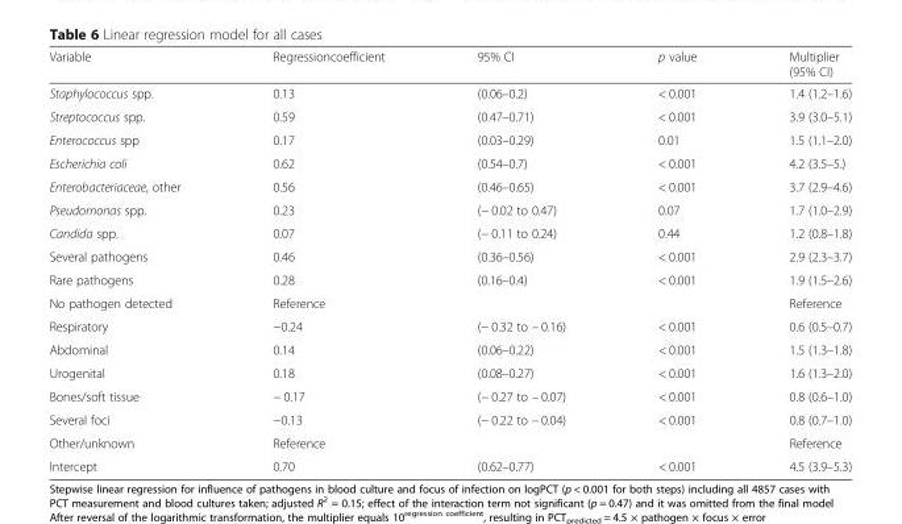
<table><thead><tr><td>Variable</td><td>Regressioncoefficient</td><td>95% CI</td><td>p value</td><td>Multiplier (95% CI)</td></tr></thead><tbody><tr><td>Staphylococcus spp.</td><td>0.13</td><td>(0.06–0.2)</td><td>&lt; 0.001</td><td>1.4 (1.2–1.6)</td></tr><tr><td>Streptococcus spp.</td><td>0.59</td><td>(0.47–0.71)</td><td>&lt; 0.001</td><td>3.9 (3.0–5.1)</td></tr><tr><td>Enterococcus spp</td><td>0.17</td><td>(0.03–0.29)</td><td>0.01</td><td>1.5 (1.1–2.0)</td></tr><tr><td>Escherichia coli</td><td>0.62</td><td>(0.54–0.7)</td><td>&lt; 0.001</td><td>4.2 (3.5–5.)</td></tr><tr><td>Enterobacteriaceae, other</td><td>0.56</td><td>(0.46–0.65)</td><td>&lt; 0.001</td><td>3.7 (2.9–4.6)</td></tr><tr><td>Pseudomonas spp.</td><td>0.23</td><td>(− 0.02 to 0.47)</td><td>0.07</td><td>1.7 (1.0–2.9)</td></tr><tr><td>Candida spp.</td><td>0.07</td><td>(− 0.11 to 0.24)</td><td>0.44</td><td>1.2 (0.8–1.8)</td></tr><tr><td>Several pathogens</td><td>0.46</td><td>(0.36–0.56)</td><td>&lt; 0.001</td><td>2.9 (2.3–3.7)</td></tr><tr><td>Rare pathogens</td><td>0.28</td><td>(0.16–0.4)</td><td>&lt; 0.001</td><td>1.9 (1.5–2.6)</td></tr><tr><td>No pathogen detected</td><td>Reference</td><td></td><td></td><td>Reference</td></tr><tr><td>Respiratory</td><td>−0.24</td><td>(− 0.32 to – 0.16)</td><td>&lt; 0.001</td><td>0.6 (0.5–0.7)</td></tr><tr><td>Abdominal</td><td>0.14</td><td>(0.06–0.22)</td><td>&lt; 0.001</td><td>1.5 (1.3–1.8)</td></tr><tr><td>Urogenital</td><td>0.18</td><td>(0.08–0.27)</td><td>&lt; 0.001</td><td>1.6 (1.3–2.0)</td></tr><tr><td>Bones/soft tissue</td><td>− 0.17</td><td>(− 0.27 to – 0.07)</td><td>&lt; 0.001</td><td>0.8 (0.6–1.0)</td></tr><tr><td>Several foci</td><td>−0.13</td><td>(− 0.22 to – 0.04)</td><td>&lt; 0.001</td><td>0.8 (0.7–1.0)</td></tr><tr><td>Other/unknown</td><td>Reference</td><td></td><td></td><td>Reference</td></tr><tr><td>Intercept</td><td>0.70</td><td>(0.62–0.77)</td><td>&lt; 0.001</td><td>4.5 (3.9–5.3)</td></tr></tbody></table>